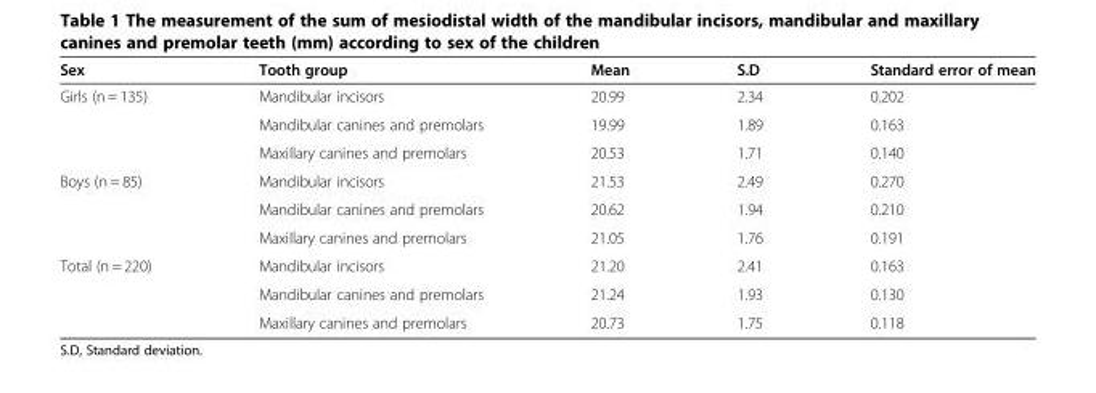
<table><thead><tr><td>Sex</td><td>Tooth group</td><td>Mean</td><td>S.D</td><td>Standard error of mean</td></tr></thead><tbody><tr><td rowspan="3">Girls (n = 135)</td><td>Mandibular incisors</td><td>20.99</td><td>2.34</td><td>0.202</td></tr><tr><td>Mandibular canines and premolars</td><td>19.99</td><td>1.89</td><td>0.163</td></tr><tr><td>Maxillary canines and premolars</td><td>20.53</td><td>1.71</td><td>0.140</td></tr><tr><td rowspan="3">Boys (n = 85)</td><td>Mandibular incisors</td><td>21.53</td><td>2.49</td><td>0.270</td></tr><tr><td>Mandibular canines and premolars</td><td>20.62</td><td>1.94</td><td>0.210</td></tr><tr><td>Maxillary canines and premolars</td><td>21.05</td><td>1.76</td><td>0.191</td></tr><tr><td rowspan="3">Total (n = 220)</td><td>Mandibular incisors</td><td>21.20</td><td>2.41</td><td>0.163</td></tr><tr><td>Mandibular canines and premolars</td><td>21.24</td><td>1.93</td><td>0.130</td></tr><tr><td>Maxillary canines and premolars</td><td>20.73</td><td>1.75</td><td>0.118</td></tr></tbody></table>